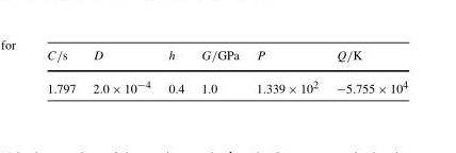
<table><thead><tr><td>C/s</td><td>D</td><td>h</td><td>G/GPa</td><td>P</td><td>Q/K</td></tr></thead><tbody><tr><td>1.797</td><td>2.0 × 10<sup>−4</sup></td><td>0.4</td><td>1.0</td><td>1.339 × 10<sup>2</sup></td><td>−5.755 × 10<sup>4</sup></td></tr></tbody></table>